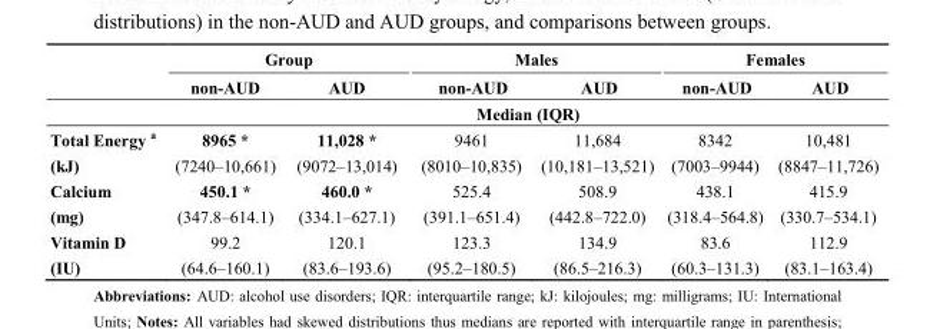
<table><thead><tr><td rowspan="3"></td><td colspan="2">Group</td><td colspan="2">Males</td><td colspan="2">Females</td></tr><tr><td>non-AUD</td><td>AUD</td><td>non-AUD</td><td>AUD</td><td>non-AUD</td><td>AUD</td></tr><tr><td colspan="6">Median (IQR)</td></tr></thead><tbody><tr><td>Total Energy <sup>a</sup></td><td>8965 *</td><td>11,028 *</td><td>9461</td><td>11,684</td><td>8342</td><td>10,481</td></tr><tr><td>(kJ)</td><td>(7240–10,661)</td><td>(9072–13,014)</td><td>(8010–10,835)</td><td>(10,181–13,521)</td><td>(7003–9944)</td><td>(8847–11,726)</td></tr><tr><td>Calcium</td><td>450.1 *</td><td>460.0 *</td><td>525.4</td><td>508.9</td><td>438.1</td><td>415.9</td></tr><tr><td>(mg)</td><td>(347.8–614.1)</td><td>(334.1–627.1)</td><td>(391.1–651.4)</td><td>(442.8–722.0)</td><td>(318.4–564.8)</td><td>(330.7–534.1)</td></tr><tr><td>Vitamin D</td><td>99.2</td><td>120.1</td><td>123.3</td><td>134.9</td><td>83.6</td><td>112.9</td></tr><tr><td>(IU)</td><td>(64.6–160.1)</td><td>(83.6–193.6)</td><td>(95.2–180.5)</td><td>(86.5–216.3)</td><td>(60.3–131.3)</td><td>(83.1–163.4)</td></tr></tbody></table>